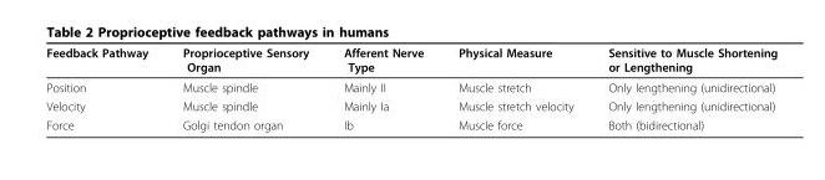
<table><thead><tr><td>Feedback Pathway</td><td>Proprioceptive Sensory Organ</td><td>Afferent Nerve Type</td><td>Physical Measure</td><td>Sensitive to Muscle Shortening or Lengthening</td></tr></thead><tbody><tr><td>Position</td><td>Muscle spindle</td><td>Mainly II</td><td>Muscle stretch</td><td>Only lengthening (unidirectional)</td></tr><tr><td>Velocity</td><td>Muscle spindle</td><td>Mainly Ia</td><td>Muscle stretch velocity</td><td>Only lengthening (unidirectional)</td></tr><tr><td>Force</td><td>Golgi tendon organ</td><td>Ib</td><td>Muscle force</td><td>Both (bidirectional)</td></tr></tbody></table>